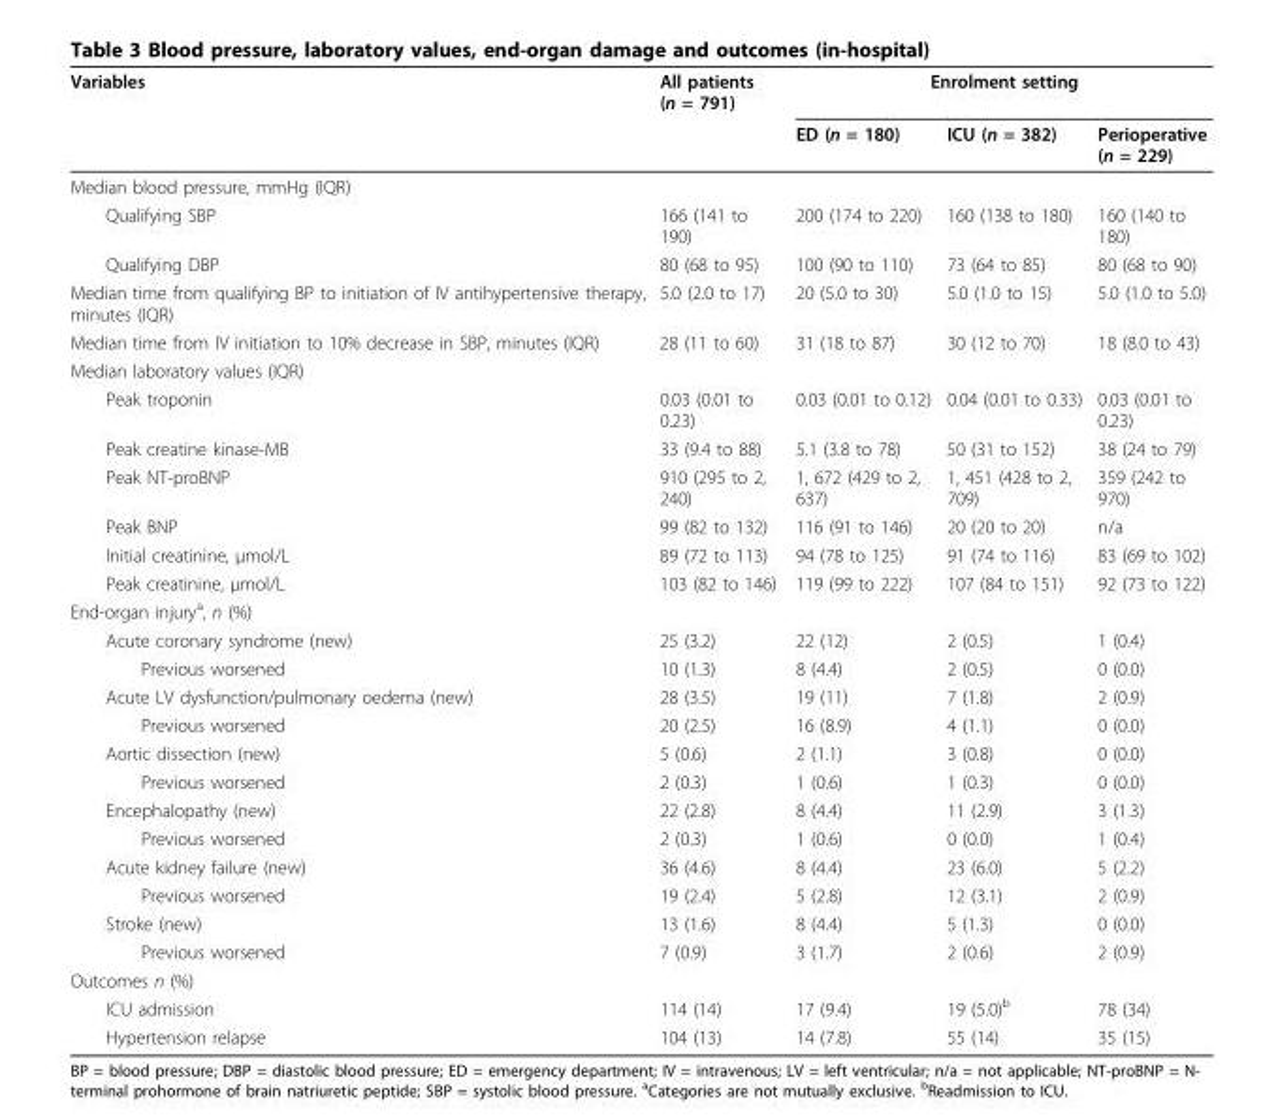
<table><thead><tr><td rowspan="2">Variables</td><td rowspan="2">All patients (n = 791)</td><td colspan="3">Enrolment setting</td></tr><tr><td>ED (n = 180)</td><td>ICU (n = 382)</td><td>Perioperative (n = 229)</td></tr></thead><tbody><tr><td colspan="5">Median blood pressure, mmHg (IQR)</td></tr><tr><td>Qualifying SBP</td><td>166 (141 to 190)</td><td>200 (174 to 220)</td><td>160 (138 to 180)</td><td>160 (140 to 180)</td></tr><tr><td>Qualifying DBP</td><td>80 (68 to 95)</td><td>100 (90 to 110)</td><td>73 (64 to 85)</td><td>80 (68 to 90)</td></tr><tr><td>Median time from qualifying BP to initiation of IV antihypertensive therapy, minutes (IQR)</td><td>5.0 (2.0 to 17)</td><td>20 (5.0 to 30)</td><td>5.0 (1.0 to 15)</td><td>5.0 (1.0 to 5.0)</td></tr><tr><td>Median time from IV initiation to 10% decrease in SBP, minutes (IQR)</td><td>28 (11 to 60)</td><td>31 (18 to 87)</td><td>30 (12 to 70)</td><td>18 (8.0 to 43)</td></tr><tr><td colspan="5">Median laboratory values (IQR)</td></tr><tr><td>Peak troponin</td><td>0.03 (0.01 to 0.23)</td><td>0.03 (0.01 to 0.12)</td><td>0.04 (0.01 to 0.33)</td><td>0.03 (0.01 to 0.23)</td></tr><tr><td>Peak creatine kinase-MB</td><td>33 (9.4 to 88)</td><td>5.1 (3.8 to 78)</td><td>50 (31 to 152)</td><td>38 (24 to 79)</td></tr><tr><td>Peak NT-proBNP</td><td>910 (295 to 2, 240)</td><td>1, 672 (429 to 2, 637)</td><td>1, 451 (428 to 2, 709)</td><td>359 (242 to 970)</td></tr><tr><td>Peak BNP</td><td>99 (82 to 132)</td><td>116 (91 to 146)</td><td>20 (20 to 20)</td><td>n/a</td></tr><tr><td>Initial creatinine, μmol/L</td><td>89 (72 to 113)</td><td>94 (78 to 125)</td><td>91 (74 to 116)</td><td>83 (69 to 102)</td></tr><tr><td>Peak creatinine, μmol/L</td><td>103 (82 to 146)</td><td>119 (99 to 222)</td><td>107 (84 to 151)</td><td>92 (73 to 122)</td></tr><tr><td colspan="5">End-organ injury<sup>a</sup>, n (%)</td></tr><tr><td>Acute coronary syndrome (new)</td><td>25 (3.2)</td><td>22 (12)</td><td>2 (0.5)</td><td>1 (0.4)</td></tr><tr><td>Previous worsened</td><td>10 (1.3)</td><td>8 (4.4)</td><td>2 (0.5)</td><td>0 (0.0)</td></tr><tr><td>Acute LV dysfunction/pulmonary oedema (new)</td><td>28 (3.5)</td><td>19 (11)</td><td>7 (1.8)</td><td>2 (0.9)</td></tr><tr><td>Previous worsened</td><td>20 (2.5)</td><td>16 (8.9)</td><td>4 (1.1)</td><td>0 (0.0)</td></tr><tr><td>Aortic dissection (new)</td><td>5 (0.6)</td><td>2 (1.1)</td><td>3 (0.8)</td><td>0 (0.0)</td></tr><tr><td>Previous worsened</td><td>2 (0.3)</td><td>1 (0.6)</td><td>1 (0.3)</td><td>0 (0.0)</td></tr><tr><td>Encephalopathy (new)</td><td>22 (2.8)</td><td>8 (4.4)</td><td>11 (2.9)</td><td>3 (1.3)</td></tr><tr><td>Previous worsened</td><td>2 (0.3)</td><td>1 (0.6)</td><td>0 (0.0)</td><td>1 (0.4)</td></tr><tr><td>Acute kidney failure (new)</td><td>36 (4.6)</td><td>8 (4.4)</td><td>23 (6.0)</td><td>5 (2.2)</td></tr><tr><td>Previous worsened</td><td>19 (2.4)</td><td>5 (2.8)</td><td>12 (3.1)</td><td>2 (0.9)</td></tr><tr><td>Stroke (new)</td><td>13 (1.6)</td><td>8 (4.4)</td><td>5 (1.3)</td><td>0 (0.0)</td></tr><tr><td>Previous worsened</td><td>7 (0.9)</td><td>3 (1.7)</td><td>2 (0.6)</td><td>2 (0.9)</td></tr><tr><td colspan="5">Outcomes n (%)</td></tr><tr><td>ICU admission</td><td>114 (14)</td><td>17 (9.4)</td><td>19 (5.0)<sup>b</sup></td><td>78 (34)</td></tr><tr><td>Hypertension relapse</td><td>104 (13)</td><td>14 (7.8)</td><td>55 (14)</td><td>35 (15)</td></tr></tbody></table>